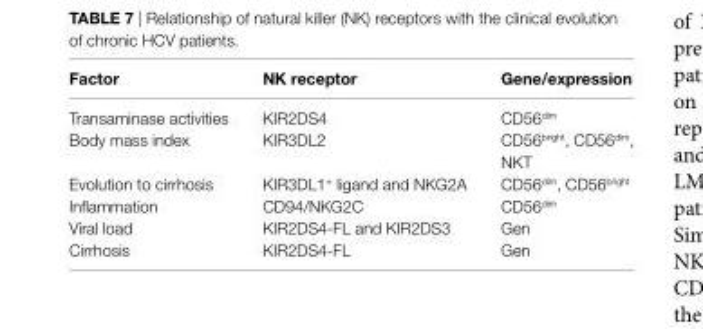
<table><thead><tr><td>Factor</td><td>nK receptor</td><td>gene/expression</td></tr></thead><tbody><tr><td>Transaminase activities</td><td>KIR2DS4</td><td>CD56<sup>dim</sup></td></tr><tr><td>Body mass index</td><td>KIR3DL2</td><td>CD56<sup>bright</sup>, CD56<sup>dim</sup>, NKT</td></tr><tr><td>Evolution to cirrhosis</td><td>KIR3DL1<sup>+</sup> ligand and NKG2A</td><td>CD56<sup>dim</sup>, CD56<sup>bright</sup></td></tr><tr><td>Inflammation</td><td>CD94/NKG2C</td><td>CD56<sup>dim</sup></td></tr><tr><td>Viral load</td><td>KIR2DS4-FL and KIR2DS3</td><td>Gen</td></tr><tr><td>Cirrhosis</td><td>KIR2DS4-FL</td><td>Gen</td></tr></tbody></table>